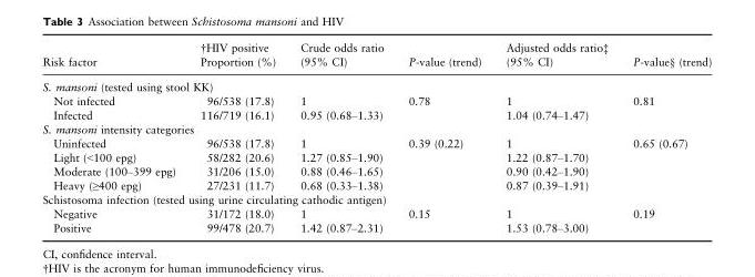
<table><thead><tr><td>Risk factor</td><td>†HIV positive Proportion (%)</td><td>Crude odds ratio (95% CI)</td><td>P-value (trend)</td><td>Adjusted odds ratio‡ (95% CI)</td><td>P-value§ (trend)</td></tr></thead><tbody><tr><td colspan="6">S. mansoni (tested using stool KK)</td></tr><tr><td>Not infected</td><td>96/538 (17.8)</td><td>1</td><td rowspan="2">0.78</td><td>1</td><td rowspan="2">0.81</td></tr><tr><td>Infected</td><td>116/719 (16.1)</td><td>0.95 (0.68–1.33)</td><td>1.04 (0.74–1.47)</td></tr><tr><td colspan="6">S. mansoni intensity categories</td></tr><tr><td>Uninfected</td><td>96/538 (17.8)</td><td>1</td><td rowspan="4">0.39 (0.22)</td><td>1</td><td rowspan="4">0.65 (0.67)</td></tr><tr><td>Light (&lt;100 epg)</td><td>58/282 (20.6)</td><td>1.27 (0.85–1.90)</td><td>1.22 (0.87–1.70)</td></tr><tr><td>Moderate (100–399 epg)</td><td>31/206 (15.0)</td><td>0.88 (0.46–1.65)</td><td>0.90 (0.42–1.90)</td></tr><tr><td>Heavy (≥400 epg)</td><td>27/231 (11.7)</td><td>0.68 (0.33–1.38)</td><td>0.87 (0.39–1.91)</td></tr><tr><td colspan="6">Schistosoma infection (tested using urine circulating cathodic antigen)</td></tr><tr><td>Negative</td><td>31/172 (18.0)</td><td>1</td><td rowspan="2">0.15</td><td>1</td><td rowspan="2">0.19</td></tr><tr><td>Positive</td><td>99/478 (20.7)</td><td>1.42 (0.87–2.31)</td><td>1.53 (0.78–3.00)</td></tr></tbody></table>